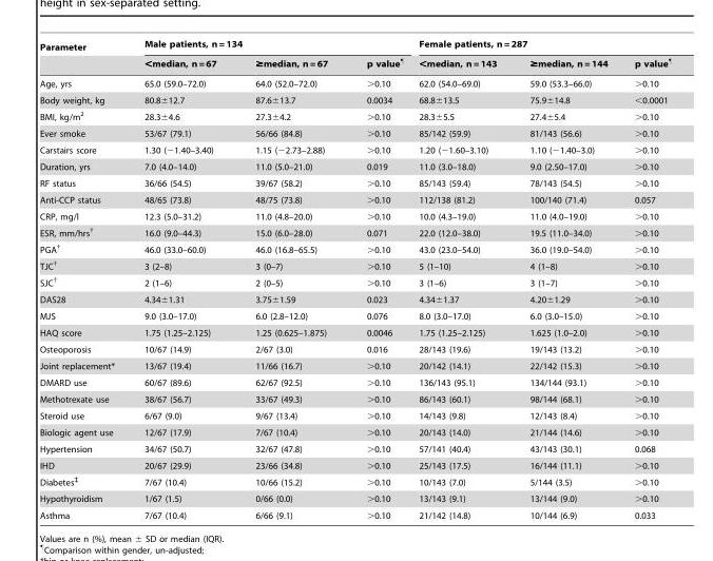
<table><thead><tr><td rowspan="2">Parameter</td><td colspan="3">Male patients, n = 134</td><td colspan="3">Female patients, n = 287</td></tr><tr><td>&lt;median, n = 67</td><td>≥median, n = 67</td><td>p value¶</td><td>&lt;median, n = 143</td><td>≥median, n = 144</td><td>p value¶</td></tr></thead><tbody><tr><td>Age, yrs</td><td>65.0 (59.0–72.0)</td><td>64.0 (52.0–72.0)</td><td>&gt;0.10</td><td>62.0 (54.0–69.0)</td><td>59.0 (53.3–66.0)</td><td>&gt;0.10</td></tr><tr><td>Body weight, kg</td><td>80.8±12.7</td><td>87.6±13.7</td><td>0.0034</td><td>68.8±13.5</td><td>75.9±14.8</td><td>&lt;0.0001</td></tr><tr><td>BMI, kg/m<sup>2</sup></td><td>28.3±4.6</td><td>27.3±4.2</td><td>&gt;0.10</td><td>28.3±5.5</td><td>27.4±5.4</td><td>&gt;0.10</td></tr><tr><td>Ever smoke</td><td>53/67 (79.1)</td><td>56/66 (84.8)</td><td>&gt;0.10</td><td>85/142 (59.9)</td><td>81/143 (56.6)</td><td>&gt;0.10</td></tr><tr><td>Carstairs score</td><td>1.30 (−1.40–3.40)</td><td>1.15 (−2.73–2.88)</td><td>&gt;0.10</td><td>1.20 (−1.60–3.10)</td><td>1.10 (−1.40–3.0)</td><td>&gt;0.10</td></tr><tr><td>Duration, yrs</td><td>7.0 (4.0–14.0)</td><td>11.0 (5.0–21.0)</td><td>0.019</td><td>11.0 (3.0–18.0)</td><td>9.0 (2.50–17.0)</td><td>&gt;0.10</td></tr><tr><td>RF status</td><td>36/66 (54.5)</td><td>39/67 (58.2)</td><td>&gt;0.10</td><td>85/143 (59.4)</td><td>78/143 (54.5)</td><td>&gt;0.10</td></tr><tr><td>Anti-CCP status</td><td>48/65 (73.8)</td><td>48/75 (73.8)</td><td>&gt;0.10</td><td>112/138 (81.2)</td><td>100/140 (71.4)</td><td>0.057</td></tr><tr><td>CRP, mg/l</td><td>12.3 (5.0–31.2)</td><td>11.0 (4.8–20.0)</td><td>&gt;0.10</td><td>10.0 (4.3–19.0)</td><td>11.0 (4.0–19.0)</td><td>&gt;0.10</td></tr><tr><td>ESR, mm/hrs†</td><td>16.0 (9.0–44.3)</td><td>15.0 (6.0–28.0)</td><td>0.071</td><td>22.0 (12.0–38.0)</td><td>19.5 (11.0–34.0)</td><td>&gt;0.10</td></tr><tr><td>PGA†</td><td>46.0 (33.0–60.0)</td><td>46.0 (16.8–65.5)</td><td>&gt;0.10</td><td>43.0 (23.0–54.0)</td><td>36.0 (19.0–54.0)</td><td>&gt;0.10</td></tr><tr><td>TJC†</td><td>3 (2–8)</td><td>3 (0–7)</td><td>&gt;0.10</td><td>5 (1–10)</td><td>4 (1–8)</td><td>&gt;0.10</td></tr><tr><td>SJC†</td><td>2 (1–6)</td><td>2 (0–5)</td><td>&gt;0.10</td><td>3 (1–6)</td><td>3 (1–7)</td><td>&gt;0.10</td></tr><tr><td>DAS28</td><td>4.34±1.31</td><td>3.75±1.59</td><td>0.023</td><td>4.34±1.37</td><td>4.20±1.29</td><td>&gt;0.10</td></tr><tr><td>MJS</td><td>9.0 (3.0–17.0)</td><td>6.0 (2.8–12.0)</td><td>0.076</td><td>8.0 (3.0–17.0)</td><td>6.0 (3.0–15.0)</td><td>&gt;0.10</td></tr><tr><td>HAQ score</td><td>1.75 (1.25–2.125)</td><td>1.25 (0.625–1.875)</td><td>0.0046</td><td>1.75 (1.25–2.125)</td><td>1.625 (1.0–2.0)</td><td>&gt;0.10</td></tr><tr><td>Osteoporosis</td><td>10/67 (14.9)</td><td>2/67 (3.0)</td><td>0.016</td><td>28/143 (19.6)</td><td>19/143 (13.2)</td><td>&gt;0.10</td></tr><tr><td>Joint replacement*</td><td>13/67 (19.4)</td><td>11/66 (16.7)</td><td>&gt;0.10</td><td>20/142 (14.1)</td><td>22/142 (15.3)</td><td>&gt;0.10</td></tr><tr><td>DMARD use</td><td>60/67 (89.6)</td><td>62/67 (92.5)</td><td>&gt;0.10</td><td>136/143 (95.1)</td><td>134/144 (93.1)</td><td>&gt;0.10</td></tr><tr><td>Methotrexate use</td><td>38/67 (56.7)</td><td>33/67 (49.3)</td><td>&gt;0.10</td><td>86/143 (60.1)</td><td>98/144 (68.1)</td><td>&gt;0.10</td></tr><tr><td>Steroid use</td><td>6/67 (9.0)</td><td>9/67 (13.4)</td><td>&gt;0.10</td><td>14/143 (9.8)</td><td>12/143 (8.4)</td><td>&gt;0.10</td></tr><tr><td>Biologic agent use</td><td>12/67 (17.9)</td><td>7/67 (10.4)</td><td>&gt;0.10</td><td>20/143 (14.0)</td><td>21/144 (14.6)</td><td>&gt;0.10</td></tr><tr><td>Hypertension</td><td>34/67 (50.7)</td><td>32/67 (47.8)</td><td>&gt;0.10</td><td>57/141 (40.4)</td><td>43/143 (30.1)</td><td>0.068</td></tr><tr><td>IHD</td><td>20/67 (29.9)</td><td>23/66 (34.8)</td><td>&gt;0.10</td><td>25/143 (17.5)</td><td>16/144 (11.1)</td><td>&gt;0.10</td></tr><tr><td>Diabetes‡</td><td>7/67 (10.4)</td><td>10/66 (15.2)</td><td>&gt;0.10</td><td>10/143 (7.0)</td><td>5/144 (3.5)</td><td>&gt;0.10</td></tr><tr><td>Hypothyroidism</td><td>1/67 (1.5)</td><td>0/66 (0.0)</td><td>&gt;0.10</td><td>13/143 (9.1)</td><td>13/144 (9.0)</td><td>&gt;0.10</td></tr><tr><td>Asthma</td><td>7/67 (10.4)</td><td>6/66 (9.1)</td><td>&gt;0.10</td><td>21/142 (14.8)</td><td>10/144 (6.9)</td><td>0.033</td></tr></tbody></table>